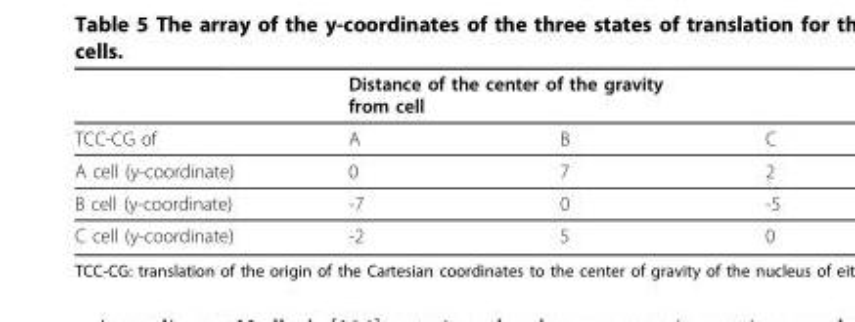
<table><thead><tr><td rowspan="2">TCC-CG of</td><td colspan="3">Distance of the center of the gravity from cell</td></tr><tr><td>A</td><td>B</td><td>C</td></tr></thead><tbody><tr><td>A cell (y-coordinate)</td><td>0</td><td>7</td><td>2</td></tr><tr><td>B cell (y-coordinate)</td><td>-7</td><td>0</td><td>-5</td></tr><tr><td>C cell (y-coordinate)</td><td>-2</td><td>5</td><td>0</td></tr></tbody></table>